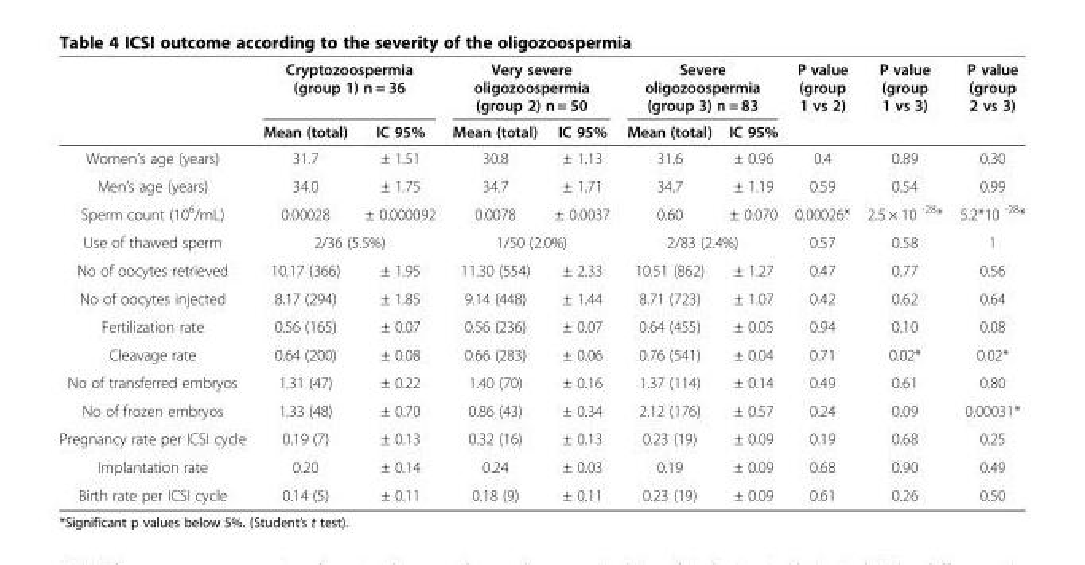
<table><thead><tr><td rowspan="2"></td><td colspan="2">Cryptozoospermia (group 1) n = 36</td><td colspan="2">Very severe oligozoospermia (group 2) n = 50</td><td colspan="2">Severe oligozoospermia (group 3) n = 83</td><td rowspan="2">P value (group 1 vs 2)</td><td rowspan="2">P value (group 1 vs 3)</td><td rowspan="2">P value (group 2 vs 3)</td></tr><tr><td>Mean (total)</td><td>IC 95%</td><td>Mean (total)</td><td>IC 95%</td><td>Mean (total)</td><td>IC 95%</td></tr></thead><tbody><tr><td>Women’s age (years)</td><td>31.7</td><td>± 1.51</td><td>30.8</td><td>± 1.13</td><td>31.6</td><td>± 0.96</td><td>0.4</td><td>0.89</td><td>0.30</td></tr><tr><td>Men’s age (years)</td><td>34.0</td><td>± 1.75</td><td>34.7</td><td>± 1.71</td><td>34.7</td><td>± 1.19</td><td>0.59</td><td>0.54</td><td>0.99</td></tr><tr><td>Sperm count (10<sup>6</sup>/mL)</td><td>0.00028</td><td>± 0.000092</td><td>0.0078</td><td>± 0.0037</td><td>0.60</td><td>± 0.070</td><td>0.00026*</td><td>2.5 × 10 <sup>-28</sup>*</td><td>5.2*10 <sup>-28</sup>*</td></tr><tr><td>Use of thawed sperm</td><td colspan="2">2/36 (5.5%)</td><td colspan="2">1/50 (2.0%)</td><td colspan="2">2/83 (2.4%)</td><td>0.57</td><td>0.58</td><td>1</td></tr><tr><td>No of oocytes retrieved</td><td>10.17 (366)</td><td>± 1.95</td><td>11.30 (554)</td><td>± 2.33</td><td>10.51 (862)</td><td>± 1.27</td><td>0.47</td><td>0.77</td><td>0.56</td></tr><tr><td>No of oocytes injected</td><td>8.17 (294)</td><td>± 1.85</td><td>9.14 (448)</td><td>± 1.44</td><td>8.71 (723)</td><td>± 1.07</td><td>0.42</td><td>0.62</td><td>0.64</td></tr><tr><td>Fertilization rate</td><td>0.56 (165)</td><td>± 0.07</td><td>0.56 (236)</td><td>± 0.07</td><td>0.64 (455)</td><td>± 0.05</td><td>0.94</td><td>0.10</td><td>0.08</td></tr><tr><td>Cleavage rate</td><td>0.64 (200)</td><td>± 0.08</td><td>0.66 (283)</td><td>± 0.06</td><td>0.76 (541)</td><td>± 0.04</td><td>0.71</td><td>0.02*</td><td>0.02*</td></tr><tr><td>No of transferred embryos</td><td>1.31 (47)</td><td>± 0.22</td><td>1.40 (70)</td><td>± 0.16</td><td>1.37 (114)</td><td>± 0.14</td><td>0.49</td><td>0.61</td><td>0.80</td></tr><tr><td>No of frozen embryos</td><td>1.33 (48)</td><td>± 0.70</td><td>0.86 (43)</td><td>± 0.34</td><td>2.12 (176)</td><td>± 0.57</td><td>0.24</td><td>0.09</td><td>0.00031*</td></tr><tr><td>Pregnancy rate per ICSI cycle</td><td>0.19 (7)</td><td>± 0.13</td><td>0.32 (16)</td><td>± 0.13</td><td>0.23 (19)</td><td>± 0.09</td><td>0.19</td><td>0.68</td><td>0.25</td></tr><tr><td>Implantation rate</td><td>0.20</td><td>± 0.14</td><td>0.24</td><td>± 0.03</td><td>0.19</td><td>± 0.09</td><td>0.68</td><td>0.90</td><td>0.49</td></tr><tr><td>Birth rate per ICSI cycle</td><td>0.14 (5)</td><td>± 0.11</td><td>0.18 (9)</td><td>± 0.11</td><td>0.23 (19)</td><td>± 0.09</td><td>0.61</td><td>0.26</td><td>0.50</td></tr></tbody></table>